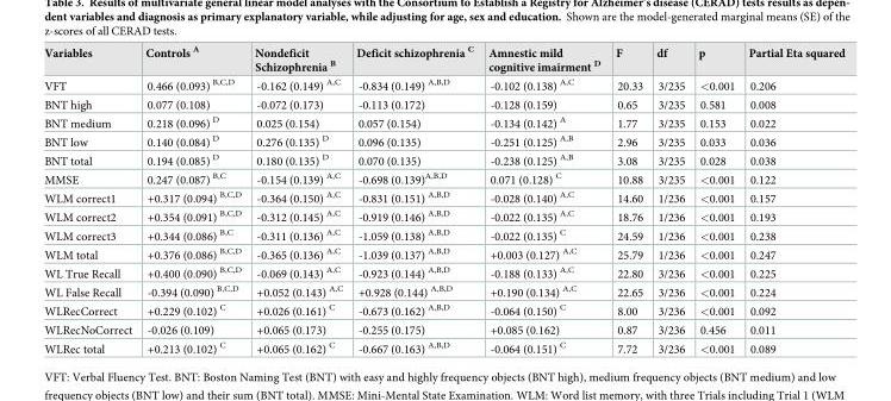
<table><thead><tr><td>Variables</td><td>Controls <sup>A</sup></td><td>Nondeficit Schizophrenia <sup>B</sup></td><td>Deficit schizophrenia <sup>C</sup></td><td>Amnestic mild cognitive imairment <sup>D</sup></td><td>F</td><td>df</td><td>p</td><td>Partial Eta squared</td></tr></thead><tbody><tr><td>VFT</td><td>0.466 (0.093) <sup>B,C,D</sup></td><td>-0.162 (0.149) <sup>A,C</sup></td><td>-0.834 (0.149) <sup>A,B,D</sup></td><td>-0.102 (0.138) <sup>A,C</sup></td><td>20.33</td><td>3/235</td><td>&lt;0.001</td><td>0.206</td></tr><tr><td>BNT high</td><td>0.077 (0.108)</td><td>-0.072 (0.173)</td><td>-0.113 (0.172)</td><td>-0.128 (0.159)</td><td>0.65</td><td>3/235</td><td>0.581</td><td>0.008</td></tr><tr><td>BNT medium</td><td>0.218 (0.096) <sup>D</sup></td><td>0.025 (0.154)</td><td>0.057 (0.154)</td><td>-0.134 (0.142) <sup>A</sup></td><td>1.77</td><td>3/235</td><td>0.153</td><td>0.022</td></tr><tr><td>BNT low</td><td>0.140 (0.084) <sup>D</sup></td><td>0.276 (0.135) <sup>D</sup></td><td>0.096 (0.135)</td><td>-0.251 (0.125) <sup>A,B</sup></td><td>2.96</td><td>3/235</td><td>0.033</td><td>0.036</td></tr><tr><td>BNT total</td><td>0.194 (0.085) <sup>D</sup></td><td>0.180 (0.135) <sup>D</sup></td><td>0.070 (0.135)</td><td>-0.238 (0.125) <sup>A,B</sup></td><td>3.08</td><td>3/235</td><td>0.028</td><td>0.038</td></tr><tr><td>MMSE</td><td>0.247 (0.087) <sup>B,C</sup></td><td>-0.154 (0.139) <sup>A,C</sup></td><td>-0.698 (0.139)<sup>A,B,D</sup></td><td>0.071 (0.128) <sup>C</sup></td><td>10.88</td><td>3/235</td><td>&lt;0.001</td><td>0.122</td></tr><tr><td>WLM correct1</td><td>+0.317 (0.094) <sup>B,C,D</sup></td><td>-0.364 (0.150) <sup>A,C</sup></td><td>-0.831 (0.151) <sup>A,B,D</sup></td><td>-0.028 (0.140) <sup>A,C</sup></td><td>14.60</td><td>1/236</td><td>&lt;0.001</td><td>0.157</td></tr><tr><td>WLM correct2</td><td>+0.354 (0.091) <sup>B,C,D</sup></td><td>-0.312 (0.145) <sup>A,C</sup></td><td>-0.919 (0.146) <sup>A,B,D</sup></td><td>-0.022 (0.135) <sup>A,C</sup></td><td>18.76</td><td>1/236</td><td>&lt;0.001</td><td>0.193</td></tr><tr><td>WLM correct3</td><td>+0.344 (0.086) <sup>B,C</sup></td><td>-0.311 (0.136) <sup>A,C</sup></td><td>-1.059 (0.138) <sup>A,B,D</sup></td><td>-0.022 (0.135) <sup>C</sup></td><td>24.59</td><td>1/236</td><td>&lt;0.001</td><td>0.238</td></tr><tr><td>WLM total</td><td>+0.376 (0.086) <sup>B,C,D</sup></td><td>-0.365 (0.136) <sup>A,C</sup></td><td>-1.039 (0.137) <sup>A,B,D</sup></td><td>+0.003 (0.127) <sup>A,C</sup></td><td>25.79</td><td>1/236</td><td>&lt;0.001</td><td>0.247</td></tr><tr><td>WL True Recall</td><td>+0.400 (0.090) <sup>B,C,D</sup></td><td>-0.069 (0.143) <sup>A,C</sup></td><td>-0.923 (0.144) <sup>A,B,D</sup></td><td>-0.188 (0.133) <sup>A,C</sup></td><td>22.80</td><td>3/236</td><td>&lt;0.001</td><td>0.225</td></tr><tr><td>WL False Recall</td><td>-0.394 (0.090) <sup>B,C,D</sup></td><td>+0.052 (0.143) <sup>A,C</sup></td><td>+0.928 (0.144) <sup>A,B,D</sup></td><td>+0.190 (0.134) <sup>A,C</sup></td><td>22.65</td><td>3/236</td><td>&lt;0.001</td><td>0.224</td></tr><tr><td>WLRecCorrect</td><td>+0.229 (0.102) <sup>C</sup></td><td>+0.026 (0.161) <sup>C</sup></td><td>-0.673 (0.162) <sup>A,B,D</sup></td><td>-0.064 (0.150) <sup>C</sup></td><td>8.00</td><td>3/236</td><td>&lt;0.001</td><td>0.092</td></tr><tr><td>WLRecNoCorrect</td><td>-0.026 (0.109)</td><td>+0.065 (0.173)</td><td>-0.255 (0.175)</td><td>+0.085 (0.162)</td><td>0.87</td><td>3/236</td><td>0.456</td><td>0.011</td></tr><tr><td>WLRec total</td><td>+0.213 (0.102) <sup>C</sup></td><td>+0.065 (0.162) <sup>C</sup></td><td>-0.667 (0.163) <sup>A,B,D</sup></td><td>-0.064 (0.151) <sup>C</sup></td><td>7.72</td><td>3/236</td><td>&lt;0.001</td><td>0.089</td></tr></tbody></table>